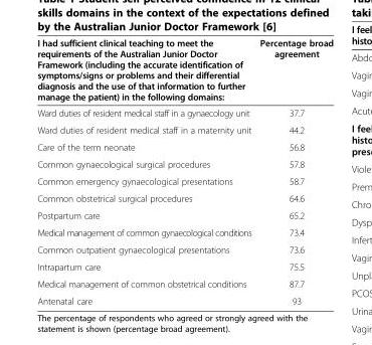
<table><thead><tr><td>I had sufficient clinical teaching to meet the requirements of the Australian Junior Doctor Framework (including the accurate identification of symptoms/signs or problems and their differential diagnosis and the use of that information to further manage the patient) in the following domains:</td><td>Percentage broad agreement</td></tr></thead><tbody><tr><td>Ward duties of resident medical staff in a gynaecology unit</td><td>37.7</td></tr><tr><td>Ward duties of resident medical staff in a maternity unit</td><td>44.2</td></tr><tr><td>Care of the term neonate</td><td>56.8</td></tr><tr><td>Common gynaecological surgical procedures</td><td>57.8</td></tr><tr><td>Common emergency gynaecological presentations</td><td>58.7</td></tr><tr><td>Common obstetrical surgical procedures</td><td>64.6</td></tr><tr><td>Postpartum care</td><td>65.2</td></tr><tr><td>Medical management of common gynaecological conditions</td><td>73.4</td></tr><tr><td>Common outpatient gynaecological presentations</td><td>73.6</td></tr><tr><td>Intrapartum care</td><td>75.5</td></tr><tr><td>Medical management of common obstetrical conditions</td><td>87.7</td></tr><tr><td>Antenatal care</td><td>93</td></tr></tbody></table>